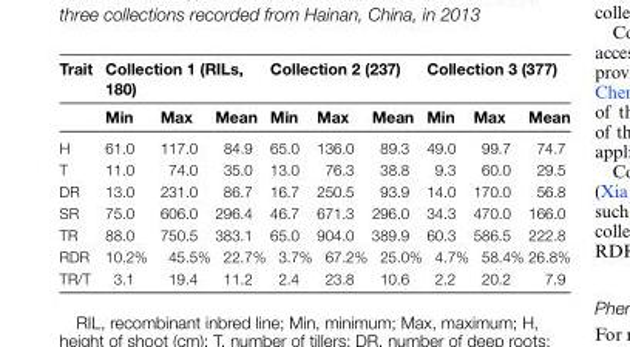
<table><thead><tr><td rowspan="2">Trait</td><td colspan="3">Collection 1 (RILs, 180)</td><td colspan="3">Collection 2 (237)</td><td colspan="3">Collection 3 (377)</td></tr><tr><td>Min</td><td>Max</td><td>Mean</td><td>Min</td><td>Max</td><td>Mean</td><td>Min</td><td>Max</td><td>Mean</td></tr></thead><tbody><tr><td>H</td><td>61.0</td><td>117.0</td><td>84.9</td><td>65.0</td><td>136.0</td><td>89.3</td><td>49.0</td><td>99.7</td><td>74.7</td></tr><tr><td>T</td><td>11.0</td><td>74.0</td><td>35.0</td><td>13.0</td><td>76.3</td><td>38.8</td><td>9.3</td><td>60.0</td><td>29.5</td></tr><tr><td>DR</td><td>13.0</td><td>231.0</td><td>86.7</td><td>16.7</td><td>250.5</td><td>93.9</td><td>14.0</td><td>170.0</td><td>56.8</td></tr><tr><td>SR</td><td>75.0</td><td>606.0</td><td>296.4</td><td>46.7</td><td>671.3</td><td>296.0</td><td>34.3</td><td>470.0</td><td>166.0</td></tr><tr><td>TR</td><td>88.0</td><td>750.5</td><td>383.1</td><td>65.0</td><td>904.0</td><td>389.9</td><td>60.3</td><td>586.5</td><td>222.8</td></tr><tr><td>RDR</td><td>10.2%</td><td>45.5%</td><td>22.7%</td><td>3.7%</td><td>67.2%</td><td>25.0%</td><td>4.7%</td><td>58.4%</td><td>26.8%</td></tr><tr><td>TR/T</td><td>3.1</td><td>19.4</td><td>11.2</td><td>2.4</td><td>23.8</td><td>10.6</td><td>2.2</td><td>20.2</td><td>7.9</td></tr></tbody></table>